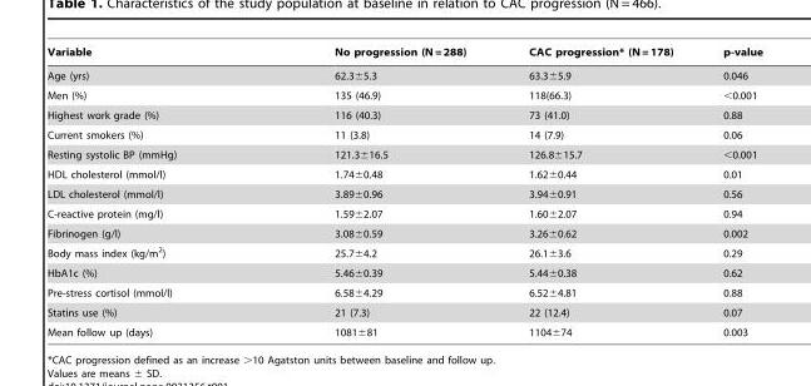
<table><thead><tr><td>Variable</td><td>No progression (N = 288)</td><td>CAC progression* (N = 178)</td><td>p-value</td></tr></thead><tbody><tr><td>Age (yrs)</td><td>62.3±5.3</td><td>63.3±5.9</td><td>0.046</td></tr><tr><td>Men (%)</td><td>135 (46.9)</td><td>118(66.3)</td><td>&lt;0.001</td></tr><tr><td>Highest work grade (%)</td><td>116 (40.3)</td><td>73 (41.0)</td><td>0.88</td></tr><tr><td>Current smokers (%)</td><td>11 (3.8)</td><td>14 (7.9)</td><td>0.06</td></tr><tr><td>Resting systolic BP (mmHg)</td><td>121.3±16.5</td><td>126.8±15.7</td><td>&lt;0.001</td></tr><tr><td>HDL cholesterol (mmol/l)</td><td>1.74±0.48</td><td>1.62±0.44</td><td>0.01</td></tr><tr><td>LDL cholesterol (mmol/l)</td><td>3.89±0.96</td><td>3.94±0.91</td><td>0.56</td></tr><tr><td>C-reactive protein (mg/l)</td><td>1.59±2.07</td><td>1.60±2.07</td><td>0.94</td></tr><tr><td>Fibrinogen (g/l)</td><td>3.08±0.59</td><td>3.26±0.62</td><td>0.002</td></tr><tr><td>Body mass index (kg/m<sup>2</sup>)</td><td>25.7±4.2</td><td>26.1±3.6</td><td>0.29</td></tr><tr><td>HbA1c (%)</td><td>5.46±0.39</td><td>5.44±0.38</td><td>0.62</td></tr><tr><td>Pre-stress cortisol (mmol/l)</td><td>6.58±4.29</td><td>6.52±4.81</td><td>0.88</td></tr><tr><td>Statins use (%)</td><td>21 (7.3)</td><td>22 (12.4)</td><td>0.07</td></tr><tr><td>Mean follow up (days)</td><td>1081±81</td><td>1104±74</td><td>0.003</td></tr></tbody></table>